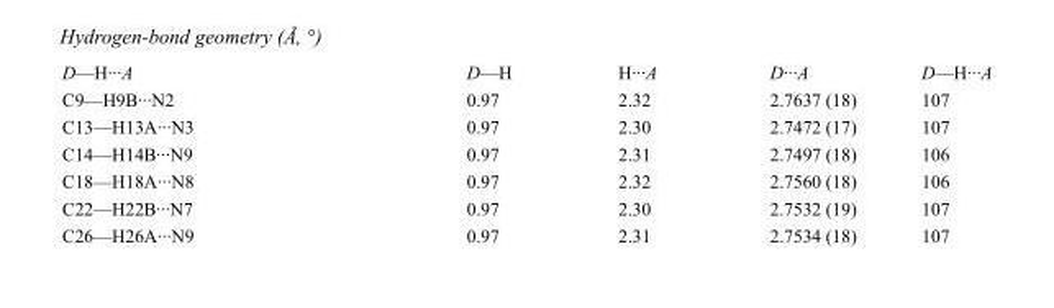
<table><tbody><tr><td>D—H···A</td><td>D—H</td><td>H···A</td><td>D···A</td><td>D—H···A</td></tr><tr><td>C9—H9B···N2</td><td>0.97</td><td>2.32</td><td>2.7637 (18)</td><td>107</td></tr><tr><td>C13—H13A···N3</td><td>0.97</td><td>2.30</td><td>2.7472 (17)</td><td>107</td></tr><tr><td>C14—H14B···N9</td><td>0.97</td><td>2.31</td><td>2.7497 (18)</td><td>106</td></tr><tr><td>C18—H18A···N8</td><td>0.97</td><td>2.32</td><td>2.7560 (18)</td><td>106</td></tr><tr><td>C22—H22B···N7</td><td>0.97</td><td>2.30</td><td>2.7532 (19)</td><td>107</td></tr><tr><td>C26—H26A···N9</td><td>0.97</td><td>2.31</td><td>2.7534 (18)</td><td>107</td></tr></tbody></table>